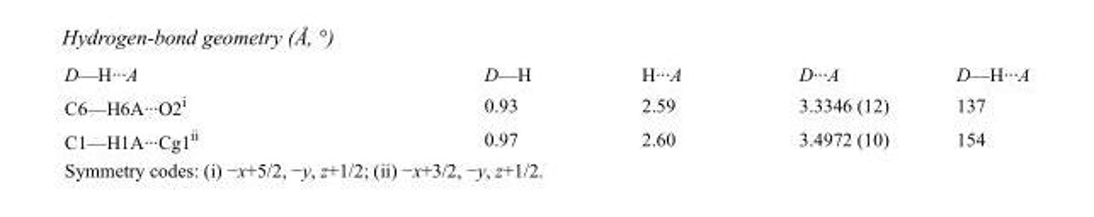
<table><tbody><tr><td>D—H···A</td><td>D—H</td><td>H···A</td><td>D···A</td><td>D—H···A</td></tr><tr><td>C6—H6A···O2<sup>i</sup></td><td>0.93</td><td>2.59</td><td>3.3346 (12)</td><td>137</td></tr><tr><td>C1—H1A···Cg1<sup>ii</sup></td><td>0.97</td><td>2.60</td><td>3.4972 (10)</td><td>154</td></tr></tbody></table>